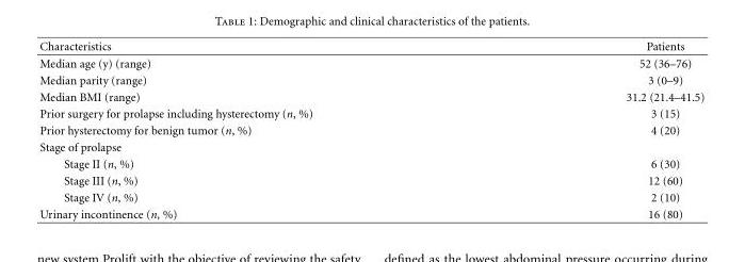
<table><thead><tr><td>Characteristics</td><td>Patients</td></tr></thead><tbody><tr><td>Median age (y) (range)</td><td>52 (36–76)</td></tr><tr><td>Median parity (range)</td><td>3 (0–9)</td></tr><tr><td>Median BMI (range)</td><td>31.2 (21.4–41.5)</td></tr><tr><td>Prior surgery for prolapse including hysterectomy (n, %)</td><td>3 (15)</td></tr><tr><td>Prior hysterectomy for benign tumor (n, %)</td><td>4 (20)</td></tr><tr><td colspan="2">Stage of prolapse</td></tr><tr><td>Stage II (n, %)</td><td>6 (30)</td></tr><tr><td>Stage III (n, %)</td><td>12 (60)</td></tr><tr><td>Stage IV (n, %)</td><td>2 (10)</td></tr><tr><td>Urinary incontinence (n, %)</td><td>16 (80)</td></tr></tbody></table>